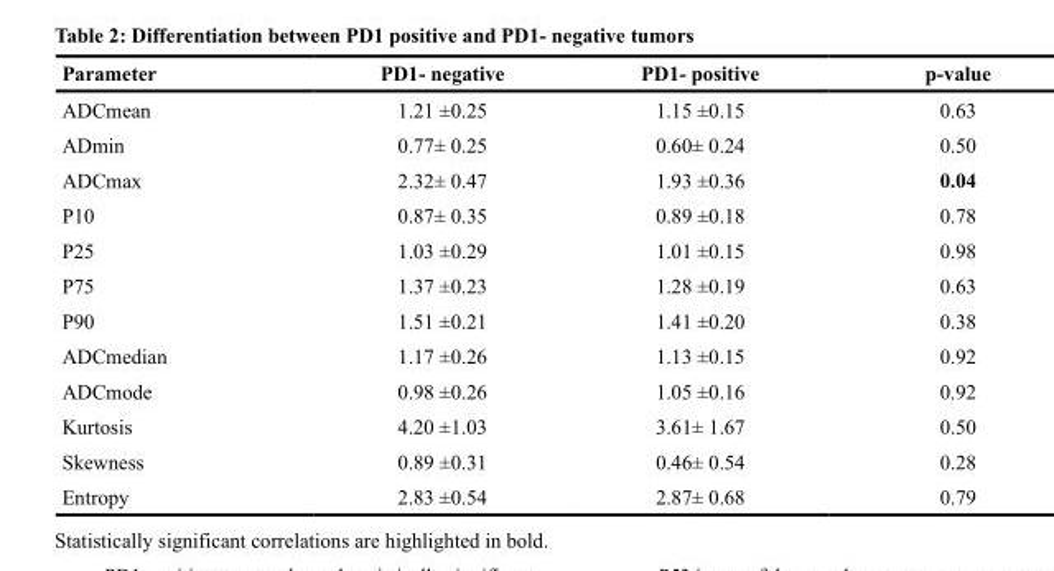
<table><thead><tr><td>Parameter</td><td>PD1- negative</td><td>PD1- positive</td><td>p-value</td></tr></thead><tbody><tr><td>ADCmean</td><td>1.21 ±0.25</td><td>1.15 ±0.15</td><td>0.63</td></tr><tr><td>ADmin</td><td>0.77± 0.25</td><td>0.60± 0.24</td><td>0.50</td></tr><tr><td>ADCmax</td><td>2.32± 0.47</td><td>1.93 ±0.36</td><td>0.04</td></tr><tr><td>P10</td><td>0.87± 0.35</td><td>0.89 ±0.18</td><td>0.78</td></tr><tr><td>P25</td><td>1.03 ±0.29</td><td>1.01 ±0.15</td><td>0.98</td></tr><tr><td>P75</td><td>1.37 ±0.23</td><td>1.28 ±0.19</td><td>0.63</td></tr><tr><td>P90</td><td>1.51 ±0.21</td><td>1.41 ±0.20</td><td>0.38</td></tr><tr><td>ADCmedian</td><td>1.17 ±0.26</td><td>1.13 ±0.15</td><td>0.92</td></tr><tr><td>ADCmode</td><td>0.98 ±0.26</td><td>1.05 ±0.16</td><td>0.92</td></tr><tr><td>Kurtosis</td><td>4.20 ±1.03</td><td>3.61± 1.67</td><td>0.50</td></tr><tr><td>Skewness</td><td>0.89 ±0.31</td><td>0.46± 0.54</td><td>0.28</td></tr><tr><td>Entropy</td><td>2.83 ±0.54</td><td>2.87± 0.68</td><td>0.79</td></tr></tbody></table>